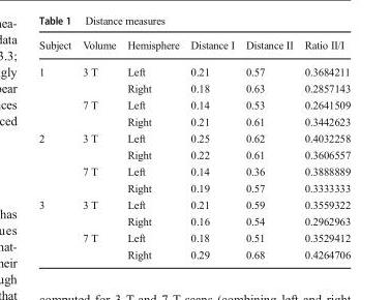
<table><thead><tr><td>Subject</td><td>Volume</td><td>Hemisphere</td><td>Distance I</td><td>Distance II</td><td>Ratio II/I</td></tr></thead><tbody><tr><td rowspan="4">1</td><td rowspan="2">3 T</td><td>Left</td><td>0.21</td><td>0.57</td><td>0.3684211</td></tr><tr><td>Right</td><td>0.18</td><td>0.63</td><td>0.2857143</td></tr><tr><td rowspan="2">7 T</td><td>Left</td><td>0.14</td><td>0.53</td><td>0.2641509</td></tr><tr><td>Right</td><td>0.21</td><td>0.61</td><td>0.3442623</td></tr><tr><td rowspan="4">2</td><td rowspan="2">3 T</td><td>Left</td><td>0.25</td><td>0.62</td><td>0.4032258</td></tr><tr><td>Right</td><td>0.22</td><td>0.61</td><td>0.3606557</td></tr><tr><td rowspan="2">7 T</td><td>Left</td><td>0.14</td><td>0.36</td><td>0.3888889</td></tr><tr><td>Right</td><td>0.19</td><td>0.57</td><td>0.3333333</td></tr><tr><td rowspan="4">3</td><td rowspan="2">3 T</td><td>Left</td><td>0.21</td><td>0.59</td><td>0.3559322</td></tr><tr><td>Right</td><td>0.16</td><td>0.54</td><td>0.2962963</td></tr><tr><td rowspan="2">7 T</td><td>Left</td><td>0.18</td><td>0.51</td><td>0.3529412</td></tr><tr><td>Right</td><td>0.29</td><td>0.68</td><td>0.4264706</td></tr></tbody></table>